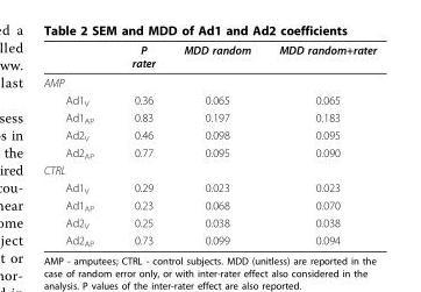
<table><thead><tr><td></td><td>P rater</td><td>MDD random</td><td>MDD random+rater</td></tr></thead><tbody><tr><td colspan="4">AMP</td></tr><tr><td>Ad1<sub>V</sub></td><td>0.36</td><td>0.065</td><td>0.065</td></tr><tr><td>Ad1<sub>AP</sub></td><td>0.83</td><td>0.197</td><td>0.183</td></tr><tr><td>Ad2<sub>V</sub></td><td>0.46</td><td>0.098</td><td>0.095</td></tr><tr><td>Ad2<sub>AP</sub></td><td>0.77</td><td>0.095</td><td>0.090</td></tr><tr><td colspan="4">CTRL</td></tr><tr><td>Ad1<sub>V</sub></td><td>0.29</td><td>0.023</td><td>0.023</td></tr><tr><td>Ad1<sub>AP</sub></td><td>0.23</td><td>0.068</td><td>0.070</td></tr><tr><td>Ad2<sub>V</sub></td><td>0.25</td><td>0.038</td><td>0.038</td></tr><tr><td>Ad2<sub>AP</sub></td><td>0.73</td><td>0.099</td><td>0.094</td></tr></tbody></table>